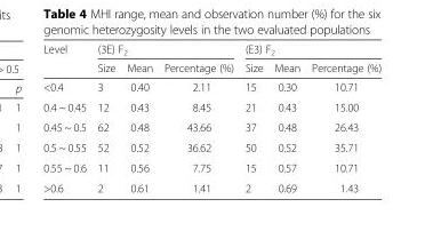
<table><thead><tr><td rowspan="2">Level</td><td colspan="3">(3E) F<sub>2</sub></td><td colspan="3">(E3) F<sub>2</sub></td></tr><tr><td>Size</td><td>Mean</td><td>Percentage (%)</td><td>Size</td><td>Mean</td><td>Percentage (%)</td></tr></thead><tbody><tr><td>&lt;0.4</td><td>3</td><td>0.40</td><td>2.11</td><td>15</td><td>0.30</td><td>10.71</td></tr><tr><td>0.4 ~ 0.45</td><td>12</td><td>0.43</td><td>8.45</td><td>21</td><td>0.43</td><td>15.00</td></tr><tr><td>0.45 ~ 0.5</td><td>62</td><td>0.48</td><td>43.66</td><td>37</td><td>0.48</td><td>26.43</td></tr><tr><td>0.5 ~ 0.55</td><td>52</td><td>0.52</td><td>36.62</td><td>50</td><td>0.52</td><td>35.71</td></tr><tr><td>0.55 ~ 0.6</td><td>11</td><td>0.56</td><td>7.75</td><td>15</td><td>0.57</td><td>10.71</td></tr><tr><td>&gt;0.6</td><td>2</td><td>0.61</td><td>1.41</td><td>2</td><td>0.69</td><td>1.43</td></tr></tbody></table>